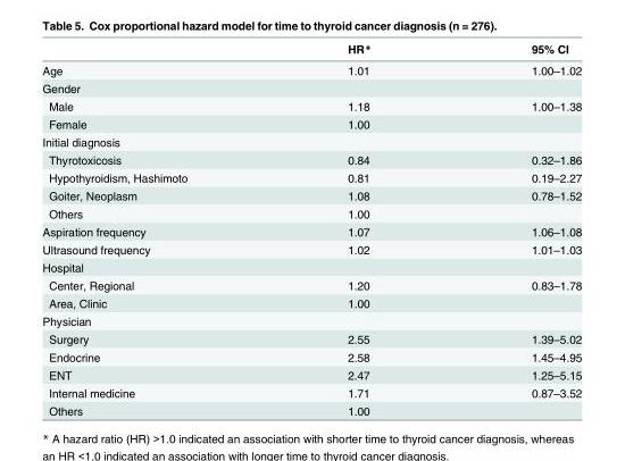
<table><thead><tr><td></td><td>HR*</td><td>95% CI</td></tr></thead><tbody><tr><td>Age</td><td>1.01</td><td>1.00–1.02</td></tr><tr><td colspan="3">Gender</td></tr><tr><td>Male</td><td>1.18</td><td>1.00–1.38</td></tr><tr><td>Female</td><td>1.00</td><td></td></tr><tr><td colspan="3">Initial diagnosis</td></tr><tr><td>Thyrotoxicosis</td><td>0.84</td><td>0.32–1.86</td></tr><tr><td>Hypothyroidism, Hashimoto</td><td>0.81</td><td>0.19–2.27</td></tr><tr><td>Goiter, Neoplasm</td><td>1.08</td><td>0.78–1.52</td></tr><tr><td>Others</td><td>1.00</td><td></td></tr><tr><td>Aspiration frequency</td><td>1.07</td><td>1.06–1.08</td></tr><tr><td>Ultrasound frequency</td><td>1.02</td><td>1.01–1.03</td></tr><tr><td colspan="3">Hospital</td></tr><tr><td>Center, Regional</td><td>1.20</td><td>0.83–1.78</td></tr><tr><td>Area, Clinic</td><td>1.00</td><td></td></tr><tr><td colspan="3">Physician</td></tr><tr><td>Surgery</td><td>2.55</td><td>1.39–5.02</td></tr><tr><td>Endocrine</td><td>2.58</td><td>1.45–4.95</td></tr><tr><td>ENT</td><td>2.47</td><td>1.25–5.15</td></tr><tr><td>Internal medicine</td><td>1.71</td><td>0.87–3.52</td></tr><tr><td>Others</td><td>1.00</td><td></td></tr></tbody></table>